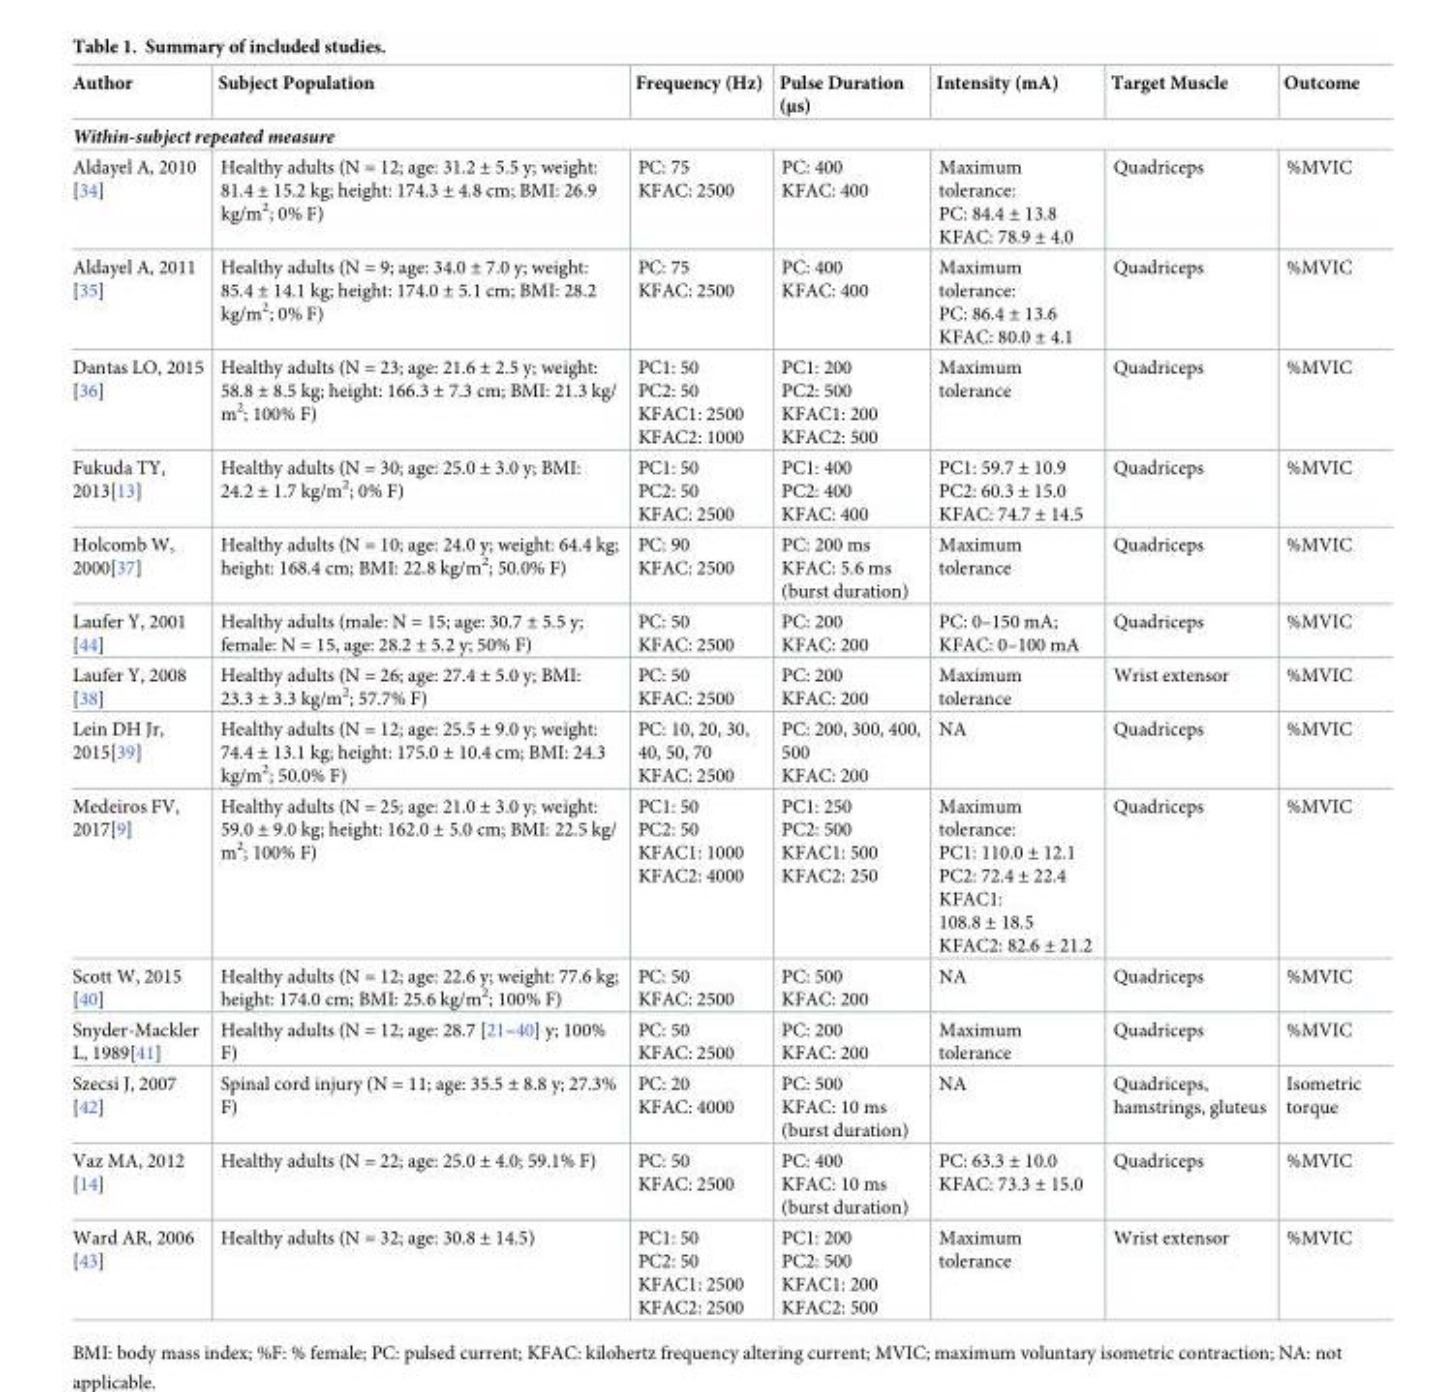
<table><thead><tr><td>Author</td><td>Subject Population</td><td>Frequency (Hz)</td><td>Pulse Duration (μs)</td><td>Intensity (mA)</td><td>Target Muscle</td><td>Outcome</td></tr></thead><tbody><tr><td colspan="7">Within-subject repeated measure</td></tr><tr><td>Aldayel A, 2010 [34]</td><td>Healthy adults (N = 12; age: 31.2 ± 5.5 y; weight: 81.4 ± 15.2 kg; height: 174.3 ± 4.8 cm; BMI: 26.9 kg/m<sup>2</sup>; 0% F)</td><td>PC: 75 KFAC: 2500</td><td>PC: 400 KFAC: 400</td><td>Maximum tolerance: PC: 84.4 ± 13.8 KFAC: 78.9 ± 4.0</td><td>Quadriceps</td><td>%MVIC</td></tr><tr><td>Aldayel A, 2011 [35]</td><td>Healthy adults (N = 9; age: 34.0 ± 7.0 y; weight: 85.4 ± 14.1 kg; height: 174.0 ± 5.1 cm; BMI: 28.2 kg/m<sup>2</sup>; 0% F)</td><td>PC: 75 KFAC: 2500</td><td>PC: 400 KFAC: 400</td><td>Maximum tolerance: PC: 86.4 ± 13.6 KFAC: 80.0 ± 4.1</td><td>Quadriceps</td><td>%MVIC</td></tr><tr><td>Dantas LO, 2015 [36]</td><td>Healthy adults (N = 23; age: 21.6 ± 2.5 y; weight: 58.8 ± 8.5 kg; height: 166.3 ± 7.3 cm; BMI: 21.3 kg/ m<sup>2</sup>; 100% F)</td><td>PC1: 50 PC2: 50 KFAC1: 2500 KFAC2: 1000</td><td>PC1: 200 PC2: 500 KFAC1: 200 KFAC2: 500</td><td>Maximum tolerance</td><td>Quadriceps</td><td>%MVIC</td></tr><tr><td>Fukuda TY, 2013[13]</td><td>Healthy adults (N = 30; age: 25.0 ± 3.0 y; BMI: 24.2 ± 1.7 kg/m<sup>2</sup>; 0% F)</td><td>PC1: 50 PC2: 50 KFAC: 2500</td><td>PC1: 400 PC2: 400 KFAC: 400</td><td>PC1: 59.7 ± 10.9 PC2: 60.3 ± 15.0 KFAC: 74.7 ± 14.5</td><td>Quadriceps</td><td>%MVIC</td></tr><tr><td>Holcomb W, 2000[37]</td><td>Healthy adults (N = 10; age: 24.0 y; weight: 64.4 kg; height: 168.4 cm; BMI: 22.8 kg/m<sup>2</sup>; 50.0% F)</td><td>PC: 90 KFAC: 2500</td><td>PC: 200 ms KFAC: 5.6 ms (burst duration)</td><td>Maximum tolerance</td><td>Quadriceps</td><td>%MVIC</td></tr><tr><td>Laufer Y, 2001 [44]</td><td>Healthy adults (male: N = 15; age: 30.7 ± 5.5 y; female: N = 15, age: 28.2 ± 5.2 y; 50% F)</td><td>PC: 50 KFAC: 2500</td><td>PC: 200 KFAC: 200</td><td>PC: 0–150 mA; KFAC: 0–100 mA</td><td>Quadriceps</td><td>%MVIC</td></tr><tr><td>Laufer Y, 2008 [38]</td><td>Healthy adults (N = 26; age: 27.4 ± 5.0 y; BMI: 23.3 ± 3.3 kg/m<sup>2</sup>; 57.7% F)</td><td>PC: 50 KFAC: 2500</td><td>PC: 200 KFAC: 200</td><td>Maximum tolerance</td><td>Wrist extensor</td><td>%MVIC</td></tr><tr><td>Lein DH Jr, 2015[39]</td><td>Healthy adults (N = 12; age: 25.5 ± 9.0 y; weight: 74.4 ± 13.1 kg; height: 175.0 ± 10.4 cm; BMI: 24.3 kg/m<sup>2</sup>; 50.0% F)</td><td>PC: 10, 20, 30, 40, 50, 70 KFAC: 2500</td><td>PC: 200, 300, 400, 500 KFAC: 200</td><td>NA</td><td>Quadriceps</td><td>%MVIC</td></tr><tr><td>Medeiros FV, 2017[9]</td><td>Healthy adults (N = 25; age: 21.0 ± 3.0 y; weight: 59.0 ± 9.0 kg; height: 162.0 ± 5.0 cm; BMI: 22.5 kg/ m<sup>2</sup>; 100% F)</td><td>PC1: 50 PC2: 50 KFAC1: 1000 KFAC2: 4000</td><td>PC1: 250 PC2: 500 KFAC1: 500 KFAC2: 250</td><td>Maximum tolerance: PC1: 110.0 ± 12.1 PC2: 72.4 ± 22.4 KFAC1: 108.8 ± 18.5 KFAC2: 82.6 ± 21.2</td><td>Quadriceps</td><td>%MVIC</td></tr><tr><td>Scott W, 2015 [40]</td><td>Healthy adults (N = 12; age: 22.6 y; weight: 77.6 kg; height: 174.0 cm; BMI: 25.6 kg/m<sup>2</sup>; 100% F)</td><td>PC: 50 KFAC: 2500</td><td>PC: 500 KFAC: 200</td><td>NA</td><td>Quadriceps</td><td>%MVIC</td></tr><tr><td>Snyder-Mackler L, 1989[41]</td><td>Healthy adults (N = 12; age: 28.7 [21–40] y; 100% F)</td><td>PC: 50 KFAC: 2500</td><td>PC: 200 KFAC: 200</td><td>Maximum tolerance</td><td>Quadriceps</td><td>%MVIC</td></tr><tr><td>Szecsi J, 2007 [42]</td><td>Spinal cord injury (N = 11; age: 35.5 ± 8.8 y; 27.3% F)</td><td>PC: 20 KFAC: 4000</td><td>PC: 500 KFAC: 10 ms (burst duration)</td><td>NA</td><td>Quadriceps, hamstrings, gluteus</td><td>Isometric torque</td></tr><tr><td>Vaz MA, 2012 [14]</td><td>Healthy adults (N = 22; age: 25.0 ± 4.0; 59.1% F)</td><td>PC: 50 KFAC: 2500</td><td>PC: 400 KFAC: 10 ms (burst duration)</td><td>PC: 63.3 ± 10.0 KFAC: 73.3 ± 15.0</td><td>Quadriceps</td><td>%MVIC</td></tr><tr><td>Ward AR, 2006 [43]</td><td>Healthy adults (N = 32; age: 30.8 ± 14.5)</td><td>PC1: 50 PC2: 50 KFAC1: 2500 KFAC2: 2500</td><td>PC1: 200 PC2: 500 KFAC1: 200 KFAC2: 500</td><td>Maximum tolerance</td><td>Wrist extensor</td><td>%MVIC</td></tr></tbody></table>